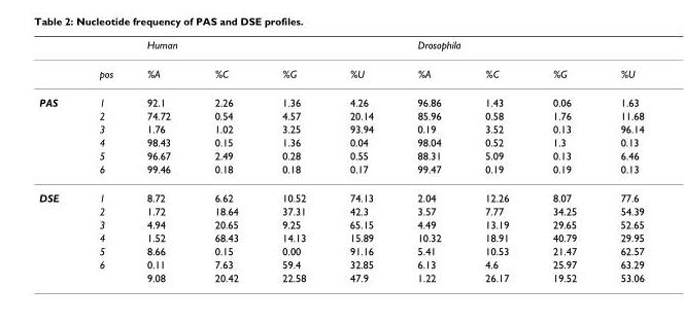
<table><thead><tr><td rowspan="2"></td><td rowspan="2">pos</td><td colspan="4">Human</td><td colspan="4">Drosophila</td></tr><tr><td>%A</td><td>%C</td><td>%G</td><td>%U</td><td>%A</td><td>%C</td><td>%G</td><td>%U</td></tr></thead><tbody><tr><td rowspan="6">PAS</td><td>1</td><td>92.1</td><td>2.26</td><td>1.36</td><td>4.26</td><td>96.86</td><td>1.43</td><td>0.06</td><td>1.63</td></tr><tr><td>2</td><td>74.72</td><td>0.54</td><td>4.57</td><td>20.14</td><td>85.96</td><td>0.58</td><td>1.76</td><td>11.68</td></tr><tr><td>3</td><td>1.76</td><td>1.02</td><td>3.25</td><td>93.94</td><td>0.19</td><td>3.52</td><td>0.13</td><td>96.14</td></tr><tr><td>4</td><td>98.43</td><td>0.15</td><td>1.36</td><td>0.04</td><td>98.04</td><td>0.52</td><td>1.3</td><td>0.13</td></tr><tr><td>5</td><td>96.67</td><td>2.49</td><td>0.28</td><td>0.55</td><td>88.31</td><td>5.09</td><td>0.13</td><td>6.46</td></tr><tr><td>6</td><td>99.46</td><td>0.18</td><td>0.18</td><td>0.17</td><td>99.47</td><td>0.19</td><td>0.19</td><td>0.13</td></tr><tr><td rowspan="7">DSE</td><td>1</td><td>8.72</td><td>6.62</td><td>10.52</td><td>74.13</td><td>2.04</td><td>12.26</td><td>8.07</td><td>77.6</td></tr><tr><td>2</td><td>1.72</td><td>18.64</td><td>37.31</td><td>42.3</td><td>3.57</td><td>7.77</td><td>34.25</td><td>54.39</td></tr><tr><td>3</td><td>4.94</td><td>20.65</td><td>9.25</td><td>65.15</td><td>4.49</td><td>13.19</td><td>29.65</td><td>52.65</td></tr><tr><td>4</td><td>1.52</td><td>68.43</td><td>14.13</td><td>15.89</td><td>10.32</td><td>18.91</td><td>40.79</td><td>29.95</td></tr><tr><td>5</td><td>8.66</td><td>0.15</td><td>0.00</td><td>91.16</td><td>5.41</td><td>10.53</td><td>21.47</td><td>62.57</td></tr><tr><td>6</td><td>0.11</td><td>7.63</td><td>59.4</td><td>32.85</td><td>6.13</td><td>4.6</td><td>25.97</td><td>63.29</td></tr><tr><td></td><td>9.08</td><td>20.42</td><td>22.58</td><td>47.9</td><td>1.22</td><td>26.17</td><td>19.52</td><td>53.06</td></tr></tbody></table>